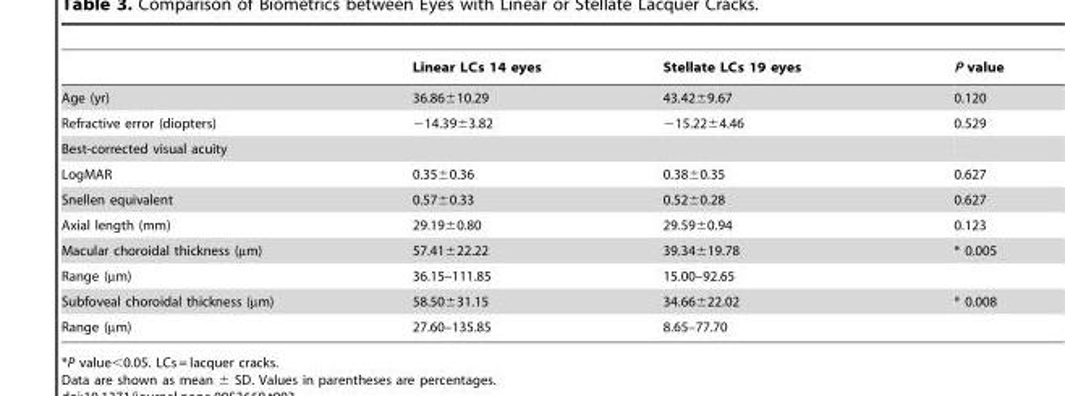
<table><thead><tr><td></td><td>Linear LCs 14 eyes</td><td>Stellate LCs 19 eyes</td><td>P value</td></tr></thead><tbody><tr><td>Age (yr)</td><td>36.86±10.29</td><td>43.42±9.67</td><td>0.120</td></tr><tr><td>Refractive error (diopters)</td><td>−14.39±3.82</td><td>−15.22±4.46</td><td>0.529</td></tr><tr><td colspan="4">Best-corrected visual acuity</td></tr><tr><td>LogMAR</td><td>0.35±0.36</td><td>0.38±0.35</td><td>0.627</td></tr><tr><td>Snellen equivalent</td><td>0.57±0.33</td><td>0.52±0.28</td><td>0.627</td></tr><tr><td>Axial length (mm)</td><td>29.19±0.80</td><td>29.59±0.94</td><td>0.123</td></tr><tr><td>Macular choroidal thickness (µm)</td><td>57.41±22.22</td><td>39.34±19.78</td><td>* 0.005</td></tr><tr><td>Range (µm)</td><td>36.15–111.85</td><td>15.00–92.65</td><td></td></tr><tr><td>Subfoveal choroidal thickness (µm)</td><td>58.50±31.15</td><td>34.66±22.02</td><td>* 0.008</td></tr><tr><td>Range (µm)</td><td>27.60–135.85</td><td>8.65–77.70</td><td></td></tr></tbody></table>